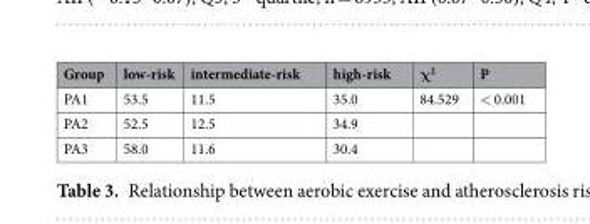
<table><thead><tr><td>Group</td><td>low-risk</td><td>intermediate-risk</td><td>high-risk</td><td>χ<sup>2</sup></td><td>P</td></tr></thead><tbody><tr><td>PA1</td><td>53.5</td><td>11.5</td><td>35.0</td><td>84.529</td><td>&lt; 0.001</td></tr><tr><td>PA2</td><td>52.5</td><td>12.5</td><td>34.9</td><td></td><td></td></tr><tr><td>PA3</td><td>58.0</td><td>11.6</td><td>30.4</td><td></td><td></td></tr></tbody></table>